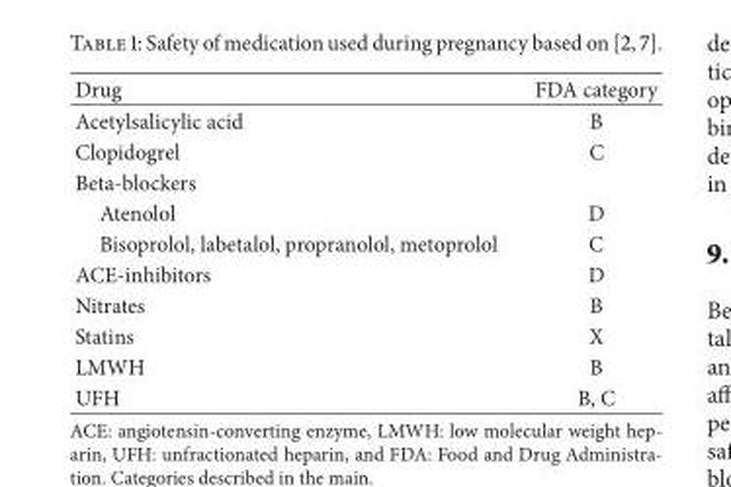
<table><thead><tr><td>Drug</td><td>FDA category</td></tr></thead><tbody><tr><td>Acetylsalicylic acid</td><td>B</td></tr><tr><td>Clopidogrel</td><td>C</td></tr><tr><td colspan="2">Beta-blockers</td></tr><tr><td>Atenolol</td><td>D</td></tr><tr><td>Bisoprolol, labetalol, propranolol, metoprolol</td><td>C</td></tr><tr><td>ACE-inhibitors</td><td>D</td></tr><tr><td>Nitrates</td><td>B</td></tr><tr><td>Statins</td><td>X</td></tr><tr><td>LMWH</td><td>B</td></tr><tr><td>UFH</td><td>B, C</td></tr></tbody></table>